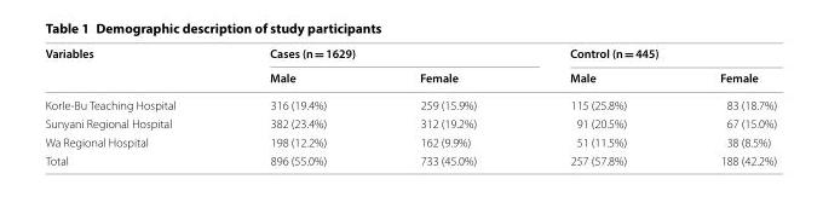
<table><thead><tr><td rowspan="2">Variables</td><td colspan="2">Cases (n = 1629)</td><td colspan="2">Control (n = 445)</td></tr><tr><td>Male</td><td>Female</td><td>Male</td><td>Female</td></tr></thead><tbody><tr><td>Korle‑Bu Teaching Hospital</td><td>316 (19.4%)</td><td>259 (15.9%)</td><td>115 (25.8%)</td><td>83 (18.7%)</td></tr><tr><td>Sunyani Regional Hospital</td><td>382 (23.4%)</td><td>312 (19.2%)</td><td>91 (20.5%)</td><td>67 (15.0%)</td></tr><tr><td>Wa Regional Hospital</td><td>198 (12.2%)</td><td>162 (9.9%)</td><td>51 (11.5%)</td><td>38 (8.5%)</td></tr><tr><td>Total</td><td>896 (55.0%)</td><td>733 (45.0%)</td><td>257 (57.8%)</td><td>188 (42.2%)</td></tr></tbody></table>